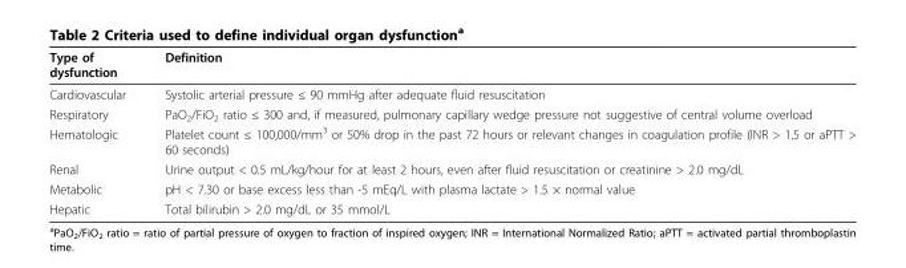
<table><thead><tr><td>Type of dysfunction</td><td>Definition</td></tr></thead><tbody><tr><td>Cardiovascular</td><td>Systolic arterial pressure ≤ 90 mmHg after adequate fluid resuscitation</td></tr><tr><td>Respiratory</td><td>PaO<sub>2</sub>/FiO<sub>2</sub> ratio ≤ 300 and, if measured, pulmonary capillary wedge pressure not suggestive of central volume overload</td></tr><tr><td>Hematologic</td><td>Platelet count ≤ 100,000/mm<sup>3</sup> or 50% drop in the past 72 hours or relevant changes in coagulation profile (INR &gt; 1.5 or aPTT &gt; 60 seconds)</td></tr><tr><td>Renal</td><td>Urine output &lt; 0.5 mL/kg/hour for at least 2 hours, even after fluid resuscitation or creatinine &gt; 2.0 mg/dL</td></tr><tr><td>Metabolic</td><td>pH &lt; 7.30 or base excess less than -5 mEq/L with plasma lactate &gt; 1.5 × normal value</td></tr><tr><td>Hepatic</td><td>Total bilirubin &gt; 2.0 mg/dL or 35 mmol/L</td></tr></tbody></table>